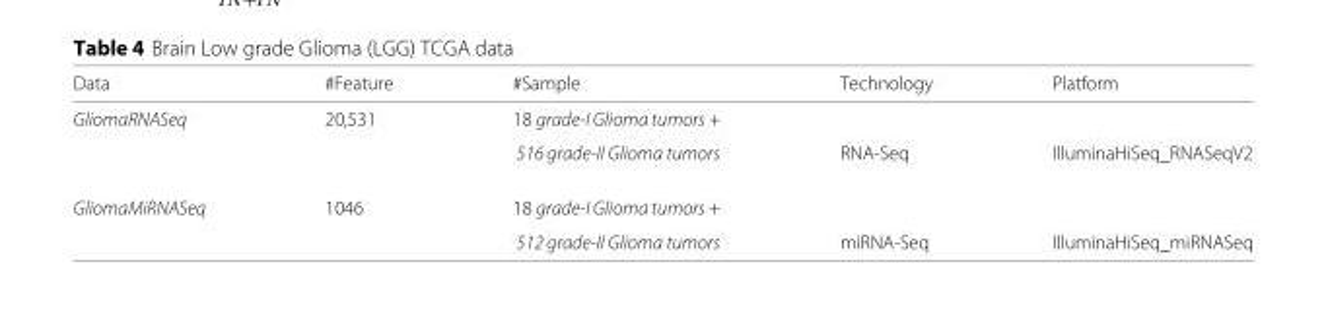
<table><thead><tr><td>Data</td><td>#Feature</td><td>#Sample</td><td>Technology</td><td>Platform</td></tr></thead><tbody><tr><td rowspan="2">GliomaRNASeq</td><td>20,531</td><td>18 grade-I Glioma tumors +</td><td colspan="2"></td></tr><tr><td></td><td>516 grade-II Glioma tumors</td><td>RNA-Seq</td><td>IlluminaHiSeq_RNASeqV2</td></tr><tr><td rowspan="2">GliomaMiRNASeq</td><td>1046</td><td>18 grade-I Glioma tumors +</td><td colspan="2"></td></tr><tr><td></td><td>512 grade-II Glioma tumors</td><td>miRNA-Seq</td><td>IlluminaHiSeq_miRNASeq</td></tr></tbody></table>